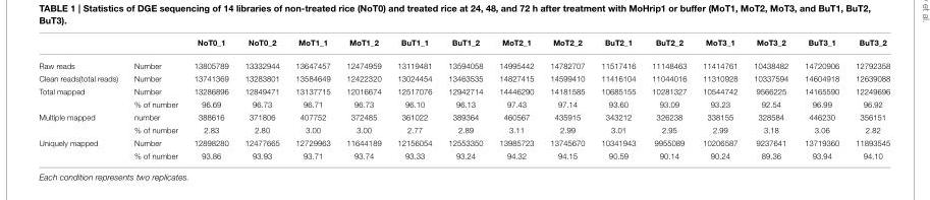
<table><thead><tr><td></td><td></td><td>NoT0_1</td><td>NoT0_2</td><td>MoT1_1</td><td>MoT1_2</td><td>BuT1_1</td><td>BuT1_2</td><td>MoT2_1</td><td>MoT2_2</td><td>BuT2_1</td><td>BuT2_2</td><td>MoT3_1</td><td>MoT3_2</td><td>BuT3_1</td><td>BuT3_2</td></tr></thead><tbody><tr><td>Raw reads</td><td>Number</td><td>13805789</td><td>13332944</td><td>13647457</td><td>12474959</td><td>13119481</td><td>13594058</td><td>14995442</td><td>14782707</td><td>11517416</td><td>11148463</td><td>11414761</td><td>10438482</td><td>14720906</td><td>12792358</td></tr><tr><td>Clean reads(total reads)</td><td>Number</td><td>13741369</td><td>13283801</td><td>13584649</td><td>12422320</td><td>13024454</td><td>13463535</td><td>14827415</td><td>14599410</td><td>11416104</td><td>11044016</td><td>11310928</td><td>10337594</td><td>14604918</td><td>12639088</td></tr><tr><td rowspan="2">Total mapped</td><td>Number</td><td>13286896</td><td>12849471</td><td>13137715</td><td>12016674</td><td>12517076</td><td>12942714</td><td>14446290</td><td>14181585</td><td>10685155</td><td>10281327</td><td>10544742</td><td>9566225</td><td>14165590</td><td>12249696</td></tr><tr><td>% of number</td><td>96.69</td><td>96.73</td><td>96.71</td><td>96.73</td><td>96.10</td><td>96.13</td><td>97.43</td><td>97.14</td><td>93.60</td><td>93.09</td><td>93.23</td><td>92.54</td><td>96.99</td><td>96.92</td></tr><tr><td rowspan="2">Multiple mapped</td><td>number</td><td>388616</td><td>371806</td><td>407752</td><td>372485</td><td>361022</td><td>389364</td><td>460567</td><td>435915</td><td>343212</td><td>326238</td><td>338155</td><td>328584</td><td>446230</td><td>356151</td></tr><tr><td>% of number</td><td>2.83</td><td>2.80</td><td>3.00</td><td>3.00</td><td>2.77</td><td>2.89</td><td>3.11</td><td>2.99</td><td>3.01</td><td>2.95</td><td>2.99</td><td>3.18</td><td>3.06</td><td>2.82</td></tr><tr><td rowspan="2">Uniquely mapped</td><td>Number</td><td>12898280</td><td>12477665</td><td>12729963</td><td>11644189</td><td>12156054</td><td>12553350</td><td>13985723</td><td>13745670</td><td>10341943</td><td>9955089</td><td>10206587</td><td>9237641</td><td>13719360</td><td>11893545</td></tr><tr><td>% of number</td><td>93.86</td><td>93.93</td><td>93.71</td><td>93.74</td><td>93.33</td><td>93.24</td><td>94.32</td><td>94.15</td><td>90.59</td><td>90.14</td><td>90.24</td><td>89.36</td><td>93.94</td><td>94.10</td></tr></tbody></table>